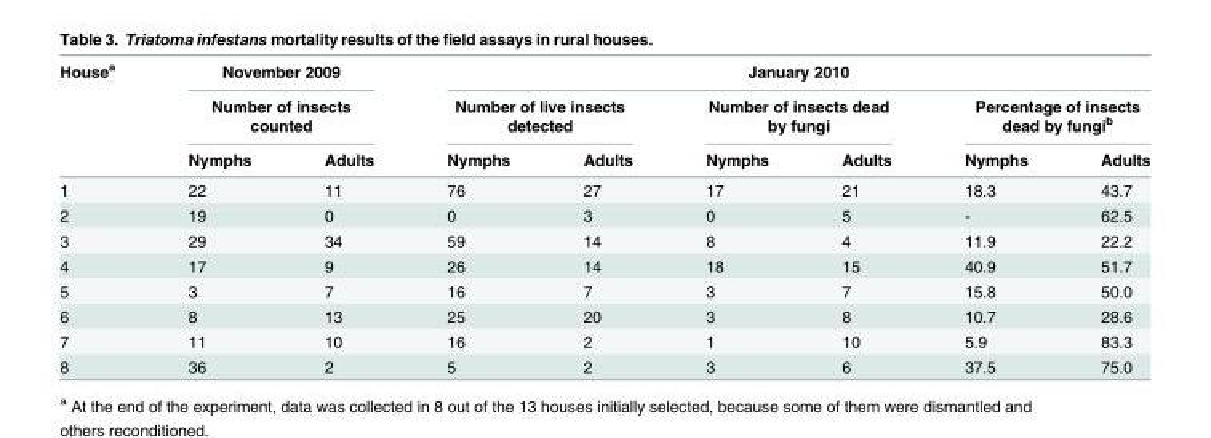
<table><thead><tr><td rowspan="3">House<sup>a</sup></td><td rowspan="2" colspan="2">November 2009 Number of insects counted</td><td colspan="6">January 2010</td></tr><tr><td colspan="2">Number of live insects detected</td><td colspan="2">Number of insects dead by fungi</td><td colspan="2">Percentage of insects dead by fungi<sup>b</sup></td></tr><tr><td>Nymphs</td><td>Adults</td><td>Nymphs</td><td>Adults</td><td>Nymphs</td><td>Adults</td><td>Nymphs</td><td>Adults</td></tr></thead><tbody><tr><td>1</td><td>22</td><td>11</td><td>76</td><td>27</td><td>17</td><td>21</td><td>18.3</td><td>43.7</td></tr><tr><td>2</td><td>19</td><td>0</td><td>0</td><td>3</td><td>0</td><td>5</td><td>-</td><td>62.5</td></tr><tr><td>3</td><td>29</td><td>34</td><td>59</td><td>14</td><td>8</td><td>4</td><td>11.9</td><td>22.2</td></tr><tr><td>4</td><td>17</td><td>9</td><td>26</td><td>14</td><td>18</td><td>15</td><td>40.9</td><td>51.7</td></tr><tr><td>5</td><td>3</td><td>7</td><td>16</td><td>7</td><td>3</td><td>7</td><td>15.8</td><td>50.0</td></tr><tr><td>6</td><td>8</td><td>13</td><td>25</td><td>20</td><td>3</td><td>8</td><td>10.7</td><td>28.6</td></tr><tr><td>7</td><td>11</td><td>10</td><td>16</td><td>2</td><td>1</td><td>10</td><td>5.9</td><td>83.3</td></tr><tr><td>8</td><td>36</td><td>2</td><td>5</td><td>2</td><td>3</td><td>6</td><td>37.5</td><td>75.0</td></tr></tbody></table>